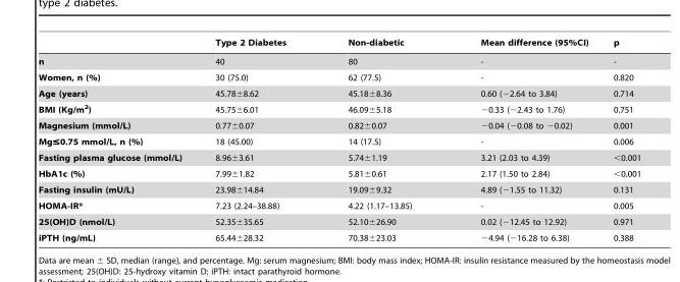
<table><thead><tr><td></td><td>Type 2 Diabetes</td><td>Non-diabetic</td><td>Mean difference (95%CI)</td><td>p</td></tr></thead><tbody><tr><td>n</td><td>40</td><td>80</td><td>-</td><td>-</td></tr><tr><td>Women, n (%)</td><td>30 (75.0)</td><td>62 (77.5)</td><td>-</td><td>0.820</td></tr><tr><td>Age (years)</td><td>45.78±8.62</td><td>45.18±8.36</td><td>0.60 (−2.64 to 3.84)</td><td>0.714</td></tr><tr><td>BMI (Kg/m<sup>2</sup>)</td><td>45.75±6.01</td><td>46.09±5.18</td><td>−0.33 (−2.43 to 1.76)</td><td>0.751</td></tr><tr><td>Magnesium (mmol/L)</td><td>0.77±0.07</td><td>0.82±0.07</td><td>−0.04 (−0.08 to −0.02)</td><td>0.001</td></tr><tr><td>Mg≤0.75 mmol/L, n (%)</td><td>18 (45.00)</td><td>14 (17.5)</td><td>-</td><td>0.006</td></tr><tr><td>Fasting plasma glucose (mmol/L)</td><td>8.96±3.61</td><td>5.74±1.19</td><td>3.21 (2.03 to 4.39)</td><td>&lt;0.001</td></tr><tr><td>HbA1c (%)</td><td>7.99±1.82</td><td>5.81±0.61</td><td>2.17 (1.50 to 2.84)</td><td>&lt;0.001</td></tr><tr><td>Fasting insulin (mU/L)</td><td>23.98±14.84</td><td>19.09±9.32</td><td>4.89 (−1.55 to 11.32)</td><td>0.131</td></tr><tr><td>HOMA-IR*</td><td>7.23 (2.24–38.88)</td><td>4.22 (1.17–13.85)</td><td>-</td><td>0.005</td></tr><tr><td>25(OH)D (nmol/L)</td><td>52.35±35.65</td><td>52.10±26.90</td><td>0.02 (−12.45 to 12.92)</td><td>0.971</td></tr><tr><td>iPTH (ng/mL)</td><td>65.44±28.32</td><td>70.38±23.03</td><td>−4.94 (−16.28 to 6.38)</td><td>0.388</td></tr></tbody></table>